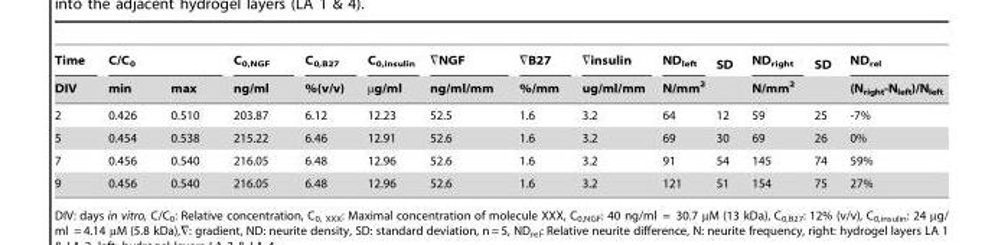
<table><thead><tr><td rowspan="2">Time DIV</td><td colspan="2">C/C<sub>0</sub></td><td rowspan="2">C<sub>0,NGF</sub> ng/ml</td><td rowspan="2">C<sub>0,B27</sub> %(v/v)</td><td rowspan="2">C<sub>0,insulin</sub> µg/ml</td><td rowspan="2">=NGF ng/ml/mm</td><td rowspan="2">=B27 %/mm</td><td rowspan="2">=insulin ug/ml/mm</td><td>ND<sub>left</sub></td><td>SD</td><td>ND<sub>right</sub></td><td>SD</td><td rowspan="2">ND<sub>rel</sub> (N<sub>right</sub>-N<sub>left</sub>)/N<sub>left</sub></td></tr><tr><td>min</td><td>max</td><td colspan="2">N/mm<sup>2</sup></td><td colspan="2">N/mm<sup>2</sup></td></tr></thead><tbody><tr><td>2</td><td>0.426</td><td>0.510</td><td>203.87</td><td>6.12</td><td>12.23</td><td>52.5</td><td>1.6</td><td>3.2</td><td>64</td><td>12</td><td>59</td><td>25</td><td>-7%</td></tr><tr><td>5</td><td>0.454</td><td>0.538</td><td>215.22</td><td>6.46</td><td>12.91</td><td>52.6</td><td>1.6</td><td>3.2</td><td>69</td><td>30</td><td>69</td><td>26</td><td>0%</td></tr><tr><td>7</td><td>0.456</td><td>0.540</td><td>216.05</td><td>6.48</td><td>12.96</td><td>52.6</td><td>1.6</td><td>3.2</td><td>91</td><td>54</td><td>145</td><td>74</td><td>59%</td></tr><tr><td>9</td><td>0.456</td><td>0.540</td><td>216.05</td><td>6.48</td><td>12.96</td><td>52.6</td><td>1.6</td><td>3.2</td><td>121</td><td>51</td><td>154</td><td>75</td><td>27%</td></tr></tbody></table>